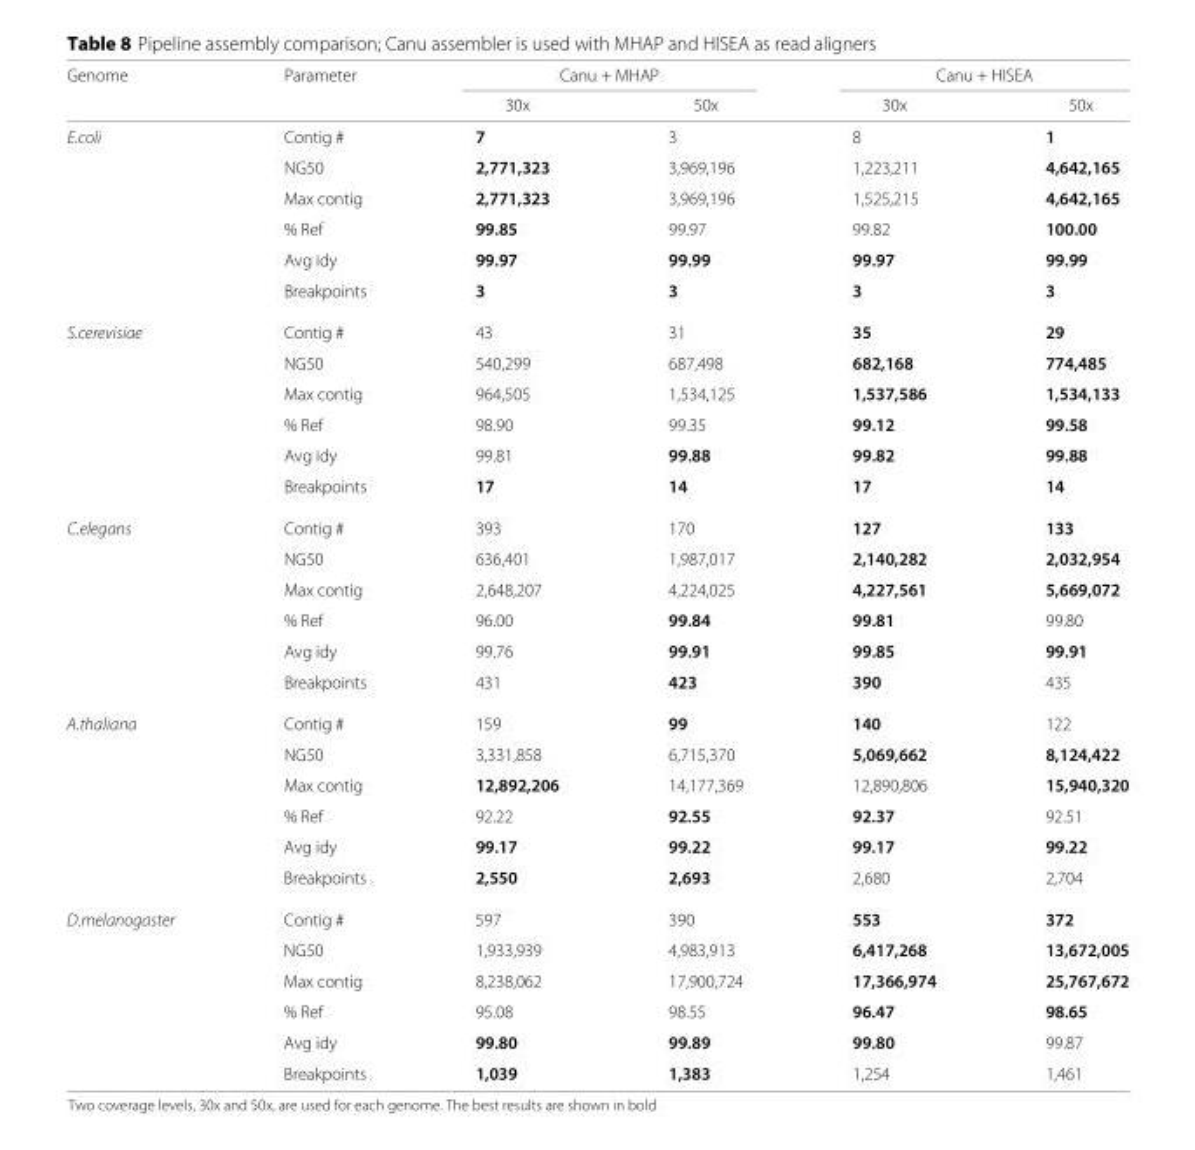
<table><thead><tr><td rowspan="2">Genome</td><td rowspan="2">Parameter</td><td colspan="2">Canu + MHAP</td><td colspan="2">Canu + HISEA</td></tr><tr><td>30x</td><td>50x</td><td>30x</td><td>50x</td></tr></thead><tbody><tr><td rowspan="6">E.coli</td><td>Contig #</td><td>7</td><td>3</td><td>8</td><td>1</td></tr><tr><td>NG50</td><td>2,771,323</td><td>3,969,196</td><td>1,223,211</td><td>4,642,165</td></tr><tr><td>Max contig</td><td>2,771,323</td><td>3,969,196</td><td>1,525,215</td><td>4,642,165</td></tr><tr><td>% Ref</td><td>99.85</td><td>99.97</td><td>99.82</td><td>100.00</td></tr><tr><td>Avg idy</td><td>99.97</td><td>99.99</td><td>99.97</td><td>99.99</td></tr><tr><td>Breakpoints</td><td>3</td><td>3</td><td>3</td><td>3</td></tr><tr><td rowspan="6">S.cerevisiae</td><td>Contig #</td><td>43</td><td>31</td><td>35</td><td>29</td></tr><tr><td>NG50</td><td>540,299</td><td>687,498</td><td>682,168</td><td>774,485</td></tr><tr><td>Max contig</td><td>964,505</td><td>1,534,125</td><td>1,537,586</td><td>1,534,133</td></tr><tr><td>% Ref</td><td>98.90</td><td>99.35</td><td>99.12</td><td>99.58</td></tr><tr><td>Avg idy</td><td>99.81</td><td>99.88</td><td>99.82</td><td>99.88</td></tr><tr><td>Breakpoints</td><td>17</td><td>14</td><td>17</td><td>14</td></tr><tr><td rowspan="6">C.elegans</td><td>Contig #</td><td>393</td><td>170</td><td>127</td><td>133</td></tr><tr><td>NG50</td><td>636,401</td><td>1,987,017</td><td>2,140,282</td><td>2,032,954</td></tr><tr><td>Max contig</td><td>2,648,207</td><td>4,224,025</td><td>4,227,561</td><td>5,669,072</td></tr><tr><td>% Ref</td><td>96.00</td><td>99.84</td><td>99.81</td><td>99.80</td></tr><tr><td>Avg idy</td><td>99.76</td><td>99.91</td><td>99.85</td><td>99.91</td></tr><tr><td>Breakpoints</td><td>431</td><td>423</td><td>390</td><td>435</td></tr><tr><td rowspan="6">A.thaliana</td><td>Contig #</td><td>159</td><td>99</td><td>140</td><td>122</td></tr><tr><td>NG50</td><td>3,331,858</td><td>6,715,370</td><td>5,069,662</td><td>8,124,422</td></tr><tr><td>Max contig</td><td>12,892,206</td><td>14,177,369</td><td>12,890,806</td><td>15,940,320</td></tr><tr><td>% Ref</td><td>92.22</td><td>92.55</td><td>92.37</td><td>92.51</td></tr><tr><td>Avg idy</td><td>99.17</td><td>99.22</td><td>99.17</td><td>99.22</td></tr><tr><td>Breakpoints</td><td>2,550</td><td>2,693</td><td>2,680</td><td>2,704</td></tr><tr><td rowspan="6">D.melanogaster</td><td>Contig #</td><td>597</td><td>390</td><td>553</td><td>372</td></tr><tr><td>NG50</td><td>1,933,939</td><td>4,983,913</td><td>6,417,268</td><td>13,672,005</td></tr><tr><td>Max contig</td><td>8,238,062</td><td>17,900,724</td><td>17,366,974</td><td>25,767,672</td></tr><tr><td>% Ref</td><td>95.08</td><td>98.55</td><td>96.47</td><td>98.65</td></tr><tr><td>Avg idy</td><td>99.80</td><td>99.89</td><td>99.80</td><td>99.87</td></tr><tr><td>Breakpoints</td><td>1,039</td><td>1,383</td><td>1,254</td><td>1,461</td></tr></tbody></table>